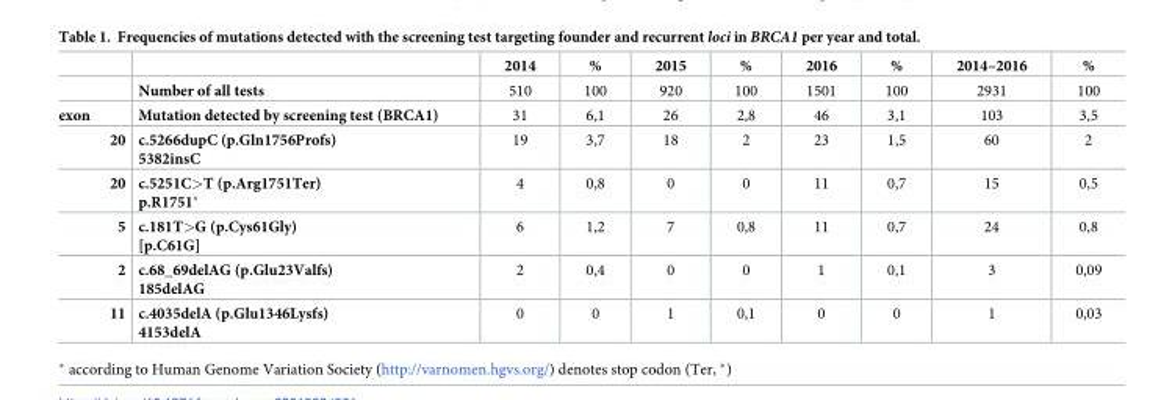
<table><thead><tr><td></td><td></td><td>2014</td><td>%</td><td>2015</td><td>%</td><td>2016</td><td>%</td><td>2014–2016</td><td>%</td></tr></thead><tbody><tr><td></td><td>Number of all tests</td><td>510</td><td>100</td><td>920</td><td>100</td><td>1501</td><td>100</td><td>2931</td><td>100</td></tr><tr><td>exon</td><td>Mutation detected by screening test (BRCA1)</td><td>31</td><td>6,1</td><td>26</td><td>2,8</td><td>46</td><td>3,1</td><td>103</td><td>3,5</td></tr><tr><td>20</td><td>c.5266dupC (p.Gln1756Profs) 5382insC</td><td>19</td><td>3,7</td><td>18</td><td>2</td><td>23</td><td>1,5</td><td>60</td><td>2</td></tr><tr><td>20</td><td>c.5251C&gt;T (p.Arg1751Ter) p.R1751*</td><td>4</td><td>0,8</td><td>0</td><td>0</td><td>11</td><td>0,7</td><td>15</td><td>0,5</td></tr><tr><td>5</td><td>c.181T&gt;G (p.Cys61Gly) [p.C61G]</td><td>6</td><td>1,2</td><td>7</td><td>0,8</td><td>11</td><td>0,7</td><td>24</td><td>0,8</td></tr><tr><td>2</td><td>c.68_69delAG (p.Glu23Valfs) 185delAG</td><td>2</td><td>0,4</td><td>0</td><td>0</td><td>1</td><td>0,1</td><td>3</td><td>0,09</td></tr><tr><td>11</td><td>c.4035delA (p.Glu1346Lysfs) 4153delA</td><td>0</td><td>0</td><td>1</td><td>0,1</td><td>0</td><td>0</td><td>1</td><td>0,03</td></tr></tbody></table>